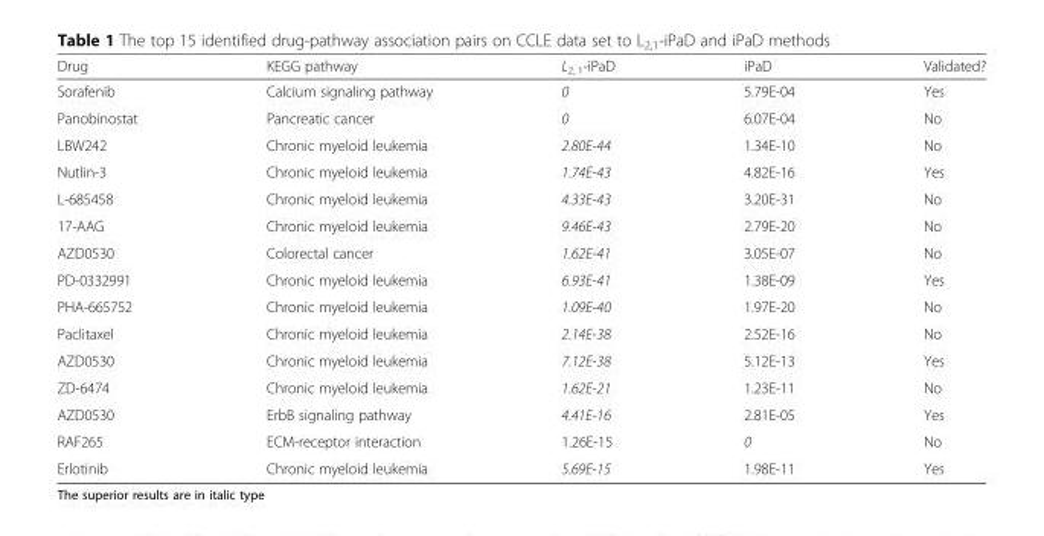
<table><thead><tr><td>Drug</td><td>KEGG pathway</td><td>L<sub>2, 1</sub>-iPaD</td><td>iPaD</td><td>Validated?</td></tr></thead><tbody><tr><td>Sorafenib</td><td>Calcium signaling pathway</td><td>0</td><td>5.79E-04</td><td>Yes</td></tr><tr><td>Panobinostat</td><td>Pancreatic cancer</td><td>0</td><td>6.07E-04</td><td>No</td></tr><tr><td>LBW242</td><td>Chronic myeloid leukemia</td><td>2.80E-44</td><td>1.34E-10</td><td>No</td></tr><tr><td>Nutlin-3</td><td>Chronic myeloid leukemia</td><td>1.74E-43</td><td>4.82E-16</td><td>Yes</td></tr><tr><td>L-685458</td><td>Chronic myeloid leukemia</td><td>4.33E-43</td><td>3.20E-31</td><td>No</td></tr><tr><td>17-AAG</td><td>Chronic myeloid leukemia</td><td>9.46E-43</td><td>2.79E-20</td><td>No</td></tr><tr><td>AZD0530</td><td>Colorectal cancer</td><td>1.62E-41</td><td>3.05E-07</td><td>No</td></tr><tr><td>PD-0332991</td><td>Chronic myeloid leukemia</td><td>6.93E-41</td><td>1.38E-09</td><td>Yes</td></tr><tr><td>PHA-665752</td><td>Chronic myeloid leukemia</td><td>1.09E-40</td><td>1.97E-20</td><td>No</td></tr><tr><td>Paclitaxel</td><td>Chronic myeloid leukemia</td><td>2.14E-38</td><td>2.52E-16</td><td>No</td></tr><tr><td>AZD0530</td><td>Chronic myeloid leukemia</td><td>7.12E-38</td><td>5.12E-13</td><td>Yes</td></tr><tr><td>ZD-6474</td><td>Chronic myeloid leukemia</td><td>1.62E-21</td><td>1.23E-11</td><td>No</td></tr><tr><td>AZD0530</td><td>ErbB signaling pathway</td><td>4.41E-16</td><td>2.81E-05</td><td>Yes</td></tr><tr><td>RAF265</td><td>ECM-receptor interaction</td><td>1.26E-15</td><td>0</td><td>No</td></tr><tr><td>Erlotinib</td><td>Chronic myeloid leukemia</td><td>5.69E-15</td><td>1.98E-11</td><td>Yes</td></tr></tbody></table>